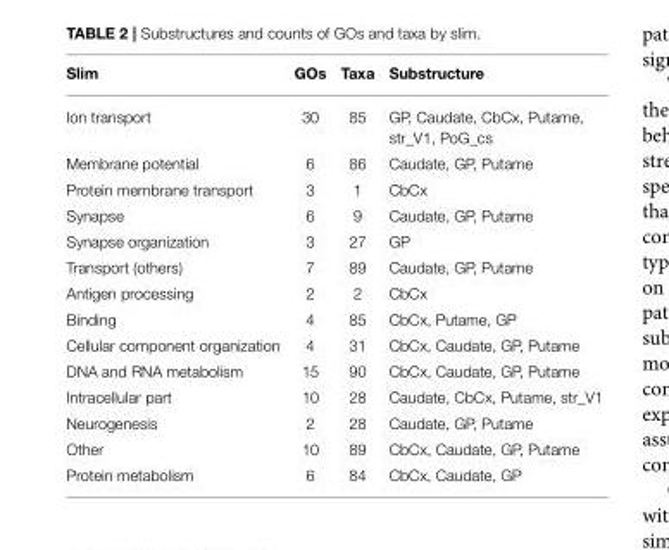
<table><thead><tr><td>Slim</td><td>GOs</td><td>Taxa</td><td>Substructure</td></tr></thead><tbody><tr><td>Ion transport</td><td>30</td><td>85</td><td>GP, Caudate, CbCx, Putame, str_V1, PoG_cs</td></tr><tr><td>Membrane potential</td><td>6</td><td>86</td><td>Caudate, GP, Putame</td></tr><tr><td>Protein membrane transport</td><td>3</td><td>1</td><td>CbCx</td></tr><tr><td>Synapse</td><td>6</td><td>9</td><td>Caudate, GP, Putame</td></tr><tr><td>Synapse organization</td><td>3</td><td>27</td><td>GP</td></tr><tr><td>Transport (others)</td><td>7</td><td>89</td><td>Caudate, GP, Putame</td></tr><tr><td>Antigen processing</td><td>2</td><td>2</td><td>CbCx</td></tr><tr><td>Binding</td><td>4</td><td>85</td><td>CbCx, Putame, GP</td></tr><tr><td>Cellular component organization</td><td>4</td><td>31</td><td>CbCx, Caudate, GP, Putame</td></tr><tr><td>DNA and RNA metabolism</td><td>15</td><td>90</td><td>CbCx, Caudate, GP, Putame</td></tr><tr><td>Intracellular part</td><td>10</td><td>28</td><td>Caudate, CbCx, Putame, str_V1</td></tr><tr><td>Neurogenesis</td><td>2</td><td>28</td><td>Caudate, GP, Putame</td></tr><tr><td>Other</td><td>10</td><td>89</td><td>CbCx, Caudate, GP, Putame</td></tr><tr><td>Protein metabolism</td><td>6</td><td>84</td><td>CbCx, Caudate, GP</td></tr></tbody></table>